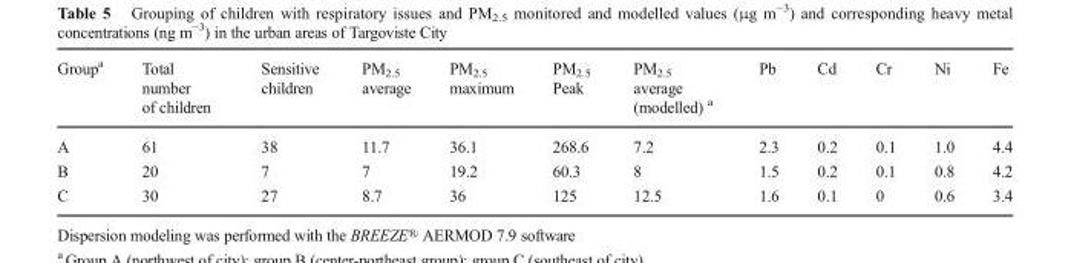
<table><thead><tr><td>Group<sup>a</sup></td><td>Total number of children</td><td>Sensitive children</td><td>PM<sub>2.5</sub> average</td><td>PM<sub>2.5</sub> maximum</td><td>PM<sub>2.5</sub> Peak</td><td>PM<sub>2.5</sub> average (modelled) <sup>a</sup></td><td>Pb</td><td>Cd</td><td>Cr</td><td>Ni</td><td>Fe</td></tr></thead><tbody><tr><td>A</td><td>61</td><td>38</td><td>11.7</td><td>36.1</td><td>268.6</td><td>7.2</td><td>2.3</td><td>0.2</td><td>0.1</td><td>1.0</td><td>4.4</td></tr><tr><td>B</td><td>20</td><td>7</td><td>7</td><td>19.2</td><td>60.3</td><td>8</td><td>1.5</td><td>0.2</td><td>0.1</td><td>0.8</td><td>4.2</td></tr><tr><td>C</td><td>30</td><td>27</td><td>8.7</td><td>36</td><td>125</td><td>12.5</td><td>1.6</td><td>0.1</td><td>0</td><td>0.6</td><td>3.4</td></tr></tbody></table>